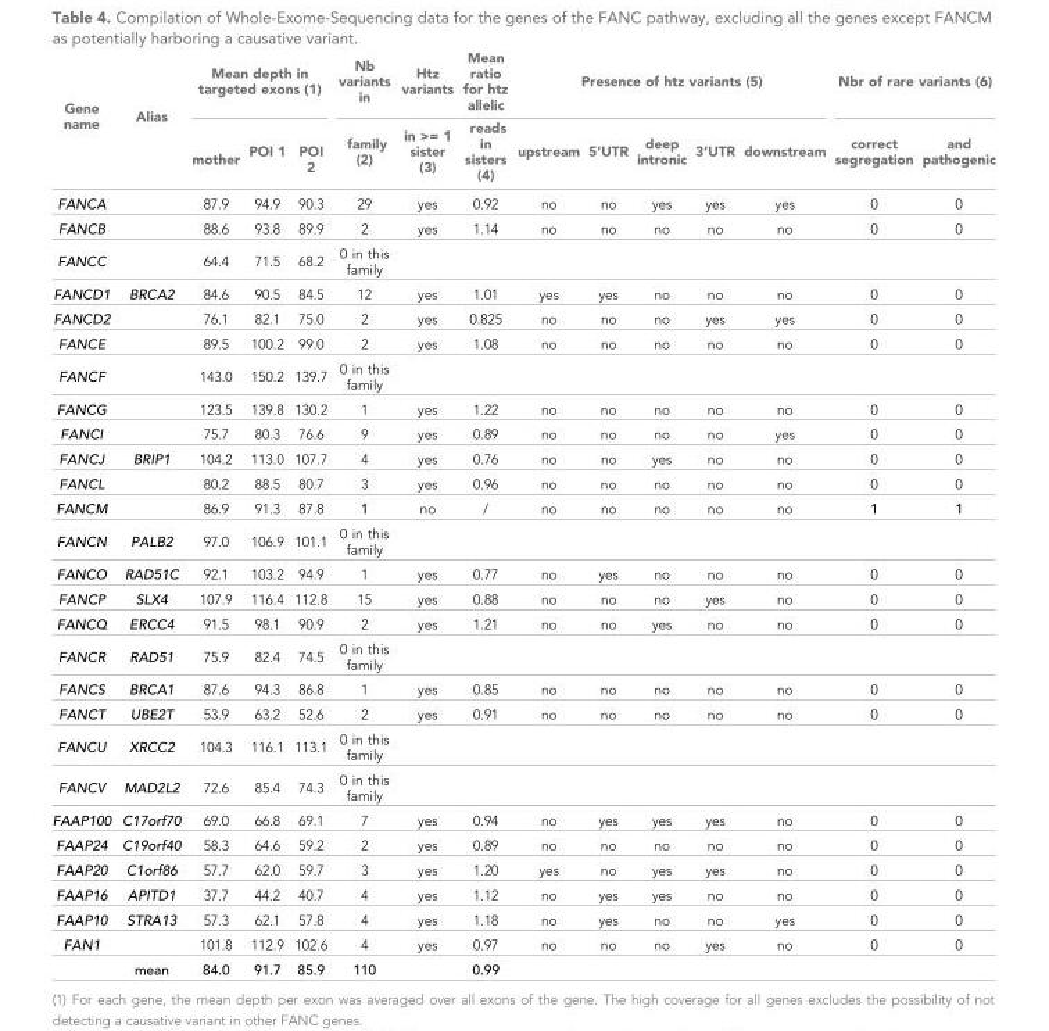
<table><thead><tr><td rowspan="2">Gene name</td><td rowspan="2">Alias</td><td colspan="3">Mean depth in targeted exons (1)</td><td rowspan="2">Nb variants in family (2)</td><td rowspan="2">Htz variants in &gt;= 1 sister (3)</td><td rowspan="2">Mean ratio for htz allelic reads in sisters (4)</td><td colspan="5">Presence of htz variants (5)</td><td colspan="2">Nbr of rare variants (6)</td></tr><tr><td>mother</td><td>POI 1</td><td>POI 2</td><td>upstream</td><td>5’UTR</td><td>deep intronic</td><td>3’UTR</td><td>downstream</td><td>correct segregation</td><td>and pathogenic</td></tr></thead><tbody><tr><td>FANCA</td><td></td><td>87.9</td><td>94.9</td><td>90.3</td><td>29</td><td>yes</td><td>0.92</td><td>no</td><td>no</td><td>yes</td><td>yes</td><td>yes</td><td>0</td><td>0</td></tr><tr><td>FANCB</td><td></td><td>88.6</td><td>93.8</td><td>89.9</td><td>2</td><td>yes</td><td>1.14</td><td>no</td><td>no</td><td>no</td><td>no</td><td>no</td><td>0</td><td>0</td></tr><tr><td>FANCC</td><td></td><td>64.4</td><td>71.5</td><td>68.2</td><td>0 in this family</td><td></td><td></td><td></td><td></td><td></td><td></td><td></td><td></td><td></td></tr><tr><td>FANCD1</td><td>BRCA2</td><td>84.6</td><td>90.5</td><td>84.5</td><td>12</td><td>yes</td><td>1.01</td><td>yes</td><td>yes</td><td>no</td><td>no</td><td>no</td><td>0</td><td>0</td></tr><tr><td>FANCD2</td><td></td><td>76.1</td><td>82.1</td><td>75.0</td><td>2</td><td>yes</td><td>0.825</td><td>no</td><td>no</td><td>no</td><td>yes</td><td>yes</td><td>0</td><td>0</td></tr><tr><td>FANCE</td><td></td><td>89.5</td><td>100.2</td><td>99.0</td><td>2</td><td>yes</td><td>1.08</td><td>no</td><td>no</td><td>no</td><td>no</td><td>no</td><td>0</td><td>0</td></tr><tr><td>FANCF</td><td></td><td>143.0</td><td>150.2</td><td>139.7</td><td>0 in this family</td><td></td><td></td><td></td><td></td><td></td><td></td><td></td><td></td><td></td></tr><tr><td>FANCG</td><td></td><td>123.5</td><td>139.8</td><td>130.2</td><td>1</td><td>yes</td><td>1.22</td><td>no</td><td>no</td><td>no</td><td>no</td><td>no</td><td>0</td><td>0</td></tr><tr><td>FANCI</td><td></td><td>75.7</td><td>80.3</td><td>76.6</td><td>9</td><td>yes</td><td>0.89</td><td>no</td><td>no</td><td>no</td><td>no</td><td>yes</td><td>0</td><td>0</td></tr><tr><td>FANCJ</td><td>BRIP1</td><td>104.2</td><td>113.0</td><td>107.7</td><td>4</td><td>yes</td><td>0.76</td><td>no</td><td>no</td><td>yes</td><td>no</td><td>no</td><td>0</td><td>0</td></tr><tr><td>FANCL</td><td></td><td>80.2</td><td>88.5</td><td>80.7</td><td>3</td><td>yes</td><td>0.96</td><td>no</td><td>no</td><td>no</td><td>no</td><td>no</td><td>0</td><td>0</td></tr><tr><td>FANCM</td><td></td><td>86.9</td><td>91.3</td><td>87.8</td><td>1</td><td>no</td><td>/</td><td>no</td><td>no</td><td>no</td><td>no</td><td>no</td><td>1</td><td>1</td></tr><tr><td>FANCN</td><td>PALB2</td><td>97.0</td><td>106.9</td><td>101.1</td><td>0 in this family</td><td></td><td></td><td></td><td></td><td></td><td></td><td></td><td></td><td></td></tr><tr><td>FANCO</td><td>RAD51C</td><td>92.1</td><td>103.2</td><td>94.9</td><td>1</td><td>yes</td><td>0.77</td><td>no</td><td>yes</td><td>no</td><td>no</td><td>no</td><td>0</td><td>0</td></tr><tr><td>FANCP</td><td>SLX4</td><td>107.9</td><td>116.4</td><td>112.8</td><td>15</td><td>yes</td><td>0.88</td><td>no</td><td>no</td><td>no</td><td>yes</td><td>no</td><td>0</td><td>0</td></tr><tr><td>FANCQ</td><td>ERCC4</td><td>91.5</td><td>98.1</td><td>90.9</td><td>2</td><td>yes</td><td>1.21</td><td>no</td><td>no</td><td>yes</td><td>no</td><td>no</td><td>0</td><td>0</td></tr><tr><td>FANCR</td><td>RAD51</td><td>75.9</td><td>82.4</td><td>74.5</td><td>0 in this family</td><td></td><td></td><td></td><td></td><td></td><td></td><td></td><td></td><td></td></tr><tr><td>FANCS</td><td>BRCA1</td><td>87.6</td><td>94.3</td><td>86.8</td><td>1</td><td>yes</td><td>0.85</td><td>no</td><td>no</td><td>no</td><td>no</td><td>no</td><td>0</td><td>0</td></tr><tr><td>FANCT</td><td>UBE2T</td><td>53.9</td><td>63.2</td><td>52.6</td><td>2</td><td>yes</td><td>0.91</td><td>no</td><td>no</td><td>no</td><td>no</td><td>no</td><td>0</td><td>0</td></tr><tr><td>FANCU</td><td>XRCC2</td><td>104.3</td><td>116.1</td><td>113.1</td><td>0 in this family</td><td></td><td></td><td></td><td></td><td></td><td></td><td></td><td></td><td></td></tr><tr><td>FANCV</td><td>MAD2L2</td><td>72.6</td><td>85.4</td><td>74.3</td><td>0 in this family</td><td></td><td></td><td></td><td></td><td></td><td></td><td></td><td></td><td></td></tr><tr><td>FAAP100</td><td>C17orf70</td><td>69.0</td><td>66.8</td><td>69.1</td><td>7</td><td>yes</td><td>0.94</td><td>no</td><td>yes</td><td>yes</td><td>yes</td><td>no</td><td>0</td><td>0</td></tr><tr><td>FAAP24</td><td>C19orf40</td><td>58.3</td><td>64.6</td><td>59.2</td><td>2</td><td>yes</td><td>0.89</td><td>no</td><td>no</td><td>no</td><td>no</td><td>no</td><td>0</td><td>0</td></tr><tr><td>FAAP20</td><td>C1orf86</td><td>57.7</td><td>62.0</td><td>59.7</td><td>3</td><td>yes</td><td>1.20</td><td>yes</td><td>no</td><td>yes</td><td>yes</td><td>no</td><td>0</td><td>0</td></tr><tr><td>FAAP16</td><td>APITD1</td><td>37.7</td><td>44.2</td><td>40.7</td><td>4</td><td>yes</td><td>1.12</td><td>no</td><td>yes</td><td>yes</td><td>no</td><td>no</td><td>0</td><td>0</td></tr><tr><td>FAAP10</td><td>STRA13</td><td>57.3</td><td>62.1</td><td>57.8</td><td>4</td><td>yes</td><td>1.18</td><td>no</td><td>yes</td><td>no</td><td>no</td><td>yes</td><td>0</td><td>0</td></tr><tr><td rowspan="2">FAN1</td><td></td><td>101.8</td><td>112.9</td><td>102.6</td><td>4</td><td>yes</td><td>0.97</td><td>no</td><td>no</td><td>no</td><td>yes</td><td>no</td><td>0</td><td>0</td></tr><tr><td>mean</td><td>84.0</td><td>91.7</td><td>85.9</td><td>110</td><td></td><td>0.99</td><td></td><td></td><td></td><td></td><td></td><td></td><td></td></tr></tbody></table>